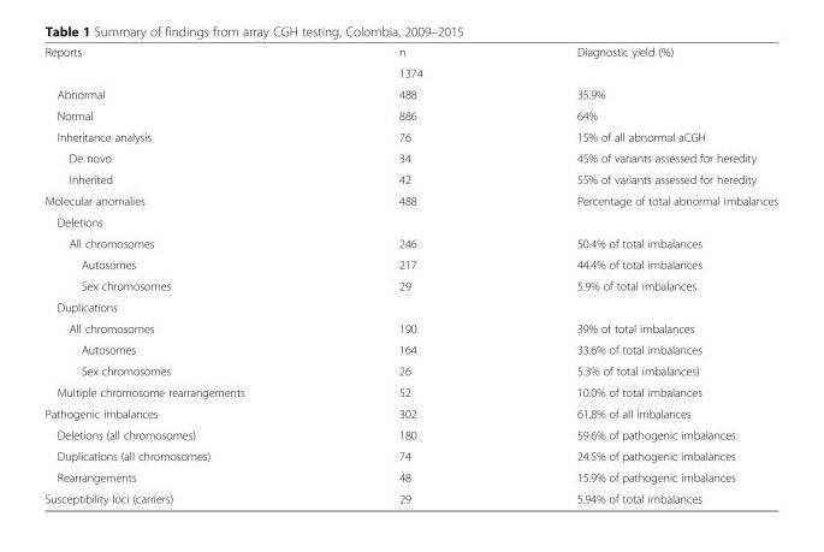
<table><tbody><tr><td rowspan="2">Reports</td><td>n</td><td rowspan="2">Diagnostic yield (%)</td></tr><tr><td>1374</td></tr><tr><td>Abnormal</td><td>488</td><td>35.9%</td></tr><tr><td>Normal</td><td>886</td><td>64%</td></tr><tr><td>Inheritance analysis</td><td>76</td><td>15% of all abnormal aCGH</td></tr><tr><td>De novo</td><td>34</td><td>45% of variants assessed for heredity</td></tr><tr><td>Inherited</td><td>42</td><td>55% of variants assessed for heredity</td></tr><tr><td>Molecular anomalies</td><td>488</td><td>Percentage of total abnormal imbalances</td></tr><tr><td colspan="3">Deletions</td></tr><tr><td>All chromosomes</td><td>246</td><td>50.4% of total imbalances</td></tr><tr><td>Autosomes</td><td>217</td><td>44.4% of total imbalances</td></tr><tr><td>Sex chromosomes</td><td>29</td><td>5.9% of total imbalances</td></tr><tr><td colspan="3">Duplications</td></tr><tr><td>All chromosomes</td><td>190</td><td>39% of total imbalances</td></tr><tr><td>Autosomes</td><td>164</td><td>33.6% of total imbalances</td></tr><tr><td>Sex chromosomes</td><td>26</td><td>5.3% of total imbalances)</td></tr><tr><td>Multiple chromosome rearrangements</td><td>52</td><td>10.0% of total imbalances</td></tr><tr><td>Pathogenic imbalances</td><td>302</td><td>61.8% of all imbalances</td></tr><tr><td>Deletions (all chromosomes)</td><td>180</td><td>59.6% of pathogenic imbalances</td></tr><tr><td>Duplications (all chromosomes)</td><td>74</td><td>24.5% of pathogenic imbalances</td></tr><tr><td>Rearrangements</td><td>48</td><td>15.9% of pathogenic imbalances</td></tr><tr><td>Susceptibility loci (carriers)</td><td>29</td><td>5.94% of total imbalances</td></tr></tbody></table>